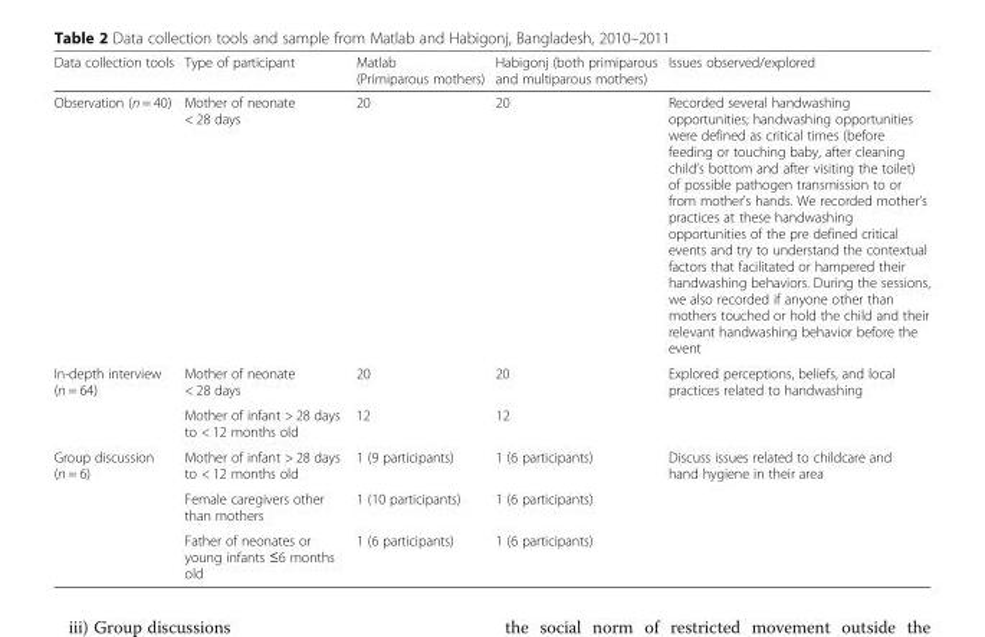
<table><thead><tr><td>Data collection tools</td><td>Type of participant</td><td>Matlab (Primiparous mothers)</td><td>Habigonj (both primiparous and multiparous mothers)</td><td>Issues observed/explored</td></tr></thead><tbody><tr><td>Observation (n = 40)</td><td>Mother of neonate &lt; 28 days</td><td>20</td><td>20</td><td>Recorded several handwashing opportunities; handwashing opportunities were defined as critical times (before feeding or touching baby, after cleaning child’s bottom and after visiting the toilet) of possible pathogen transmission to or from mother’s hands. We recorded mother’s practices at these handwashing opportunities of the pre defined critical events and try to understand the contextual factors that facilitated or hampered their handwashing behaviors. During the sessions, we also recorded if anyone other than mothers touched or hold the child and their relevant handwashing behavior before the event</td></tr><tr><td rowspan="2">In-depth interview (n = 64)</td><td>Mother of neonate &lt; 28 days</td><td>20</td><td>20</td><td>Explored perceptions, beliefs, and local practices related to handwashing</td></tr><tr><td>Mother of infant &gt; 28 days to &lt; 12 months old</td><td>12</td><td>12</td><td></td></tr><tr><td rowspan="3">Group discussion (n = 6)</td><td>Mother of infant &gt; 28 days to &lt; 12 months old</td><td>1 (9 participants)</td><td>1 (6 participants)</td><td>Discuss issues related to childcare and hand hygiene in their area</td></tr><tr><td>Female caregivers other than mothers</td><td>1 (10 participants)</td><td>1 (6 participants)</td><td></td></tr><tr><td>Father of neonates or young infants ≤6 months old</td><td>1 (6 participants)</td><td>1 (6 participants)</td><td></td></tr></tbody></table>